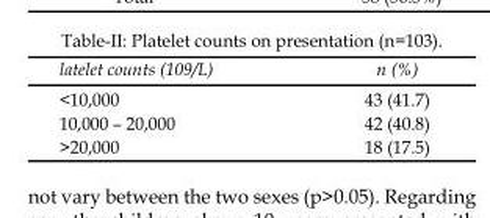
<table><thead><tr><td>latelet counts (109/L)</td><td>n (%)</td></tr></thead><tbody><tr><td>&lt;10,000</td><td>43 (41.7)</td></tr><tr><td>10,000 – 20,000</td><td>42 (40.8)</td></tr><tr><td>&gt;20,000</td><td>18 (17.5)</td></tr></tbody></table>